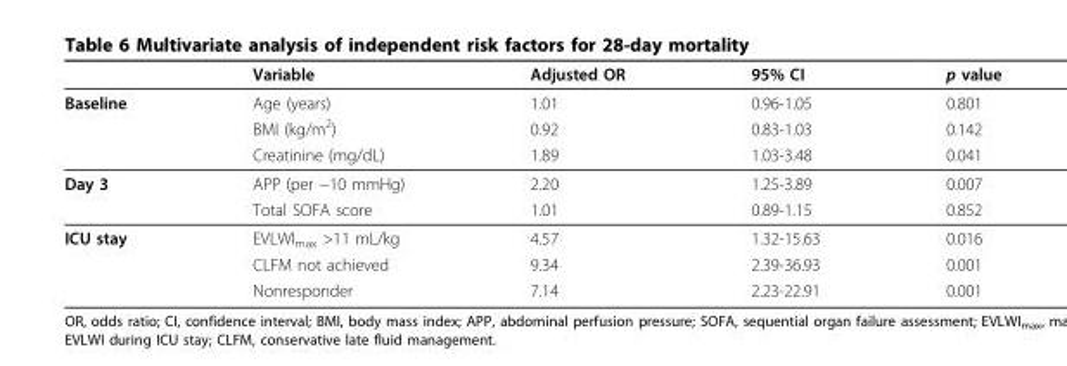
<table><thead><tr><td></td><td>Variable</td><td>Adjusted OR</td><td>95% CI</td><td>p value</td></tr></thead><tbody><tr><td rowspan="3">Baseline</td><td>Age (years)</td><td>1.01</td><td>0.96-1.05</td><td>0.801</td></tr><tr><td>BMI (kg/m<sup>2</sup>)</td><td>0.92</td><td>0.83-1.03</td><td>0.142</td></tr><tr><td>Creatinine (mg/dL)</td><td>1.89</td><td>1.03-3.48</td><td>0.041</td></tr><tr><td rowspan="2">Day 3</td><td>APP (per −10 mmHg)</td><td>2.20</td><td>1.25-3.89</td><td>0.007</td></tr><tr><td>Total SOFA score</td><td>1.01</td><td>0.89-1.15</td><td>0.852</td></tr><tr><td rowspan="3">ICU stay</td><td>EVLWI<sub>max</sub> &gt;11 mL/kg</td><td>4.57</td><td>1.32-15.63</td><td>0.016</td></tr><tr><td>CLFM not achieved</td><td>9.34</td><td>2.39-36.93</td><td>0.001</td></tr><tr><td>Nonresponder</td><td>7.14</td><td>2.23-22.91</td><td>0.001</td></tr></tbody></table>